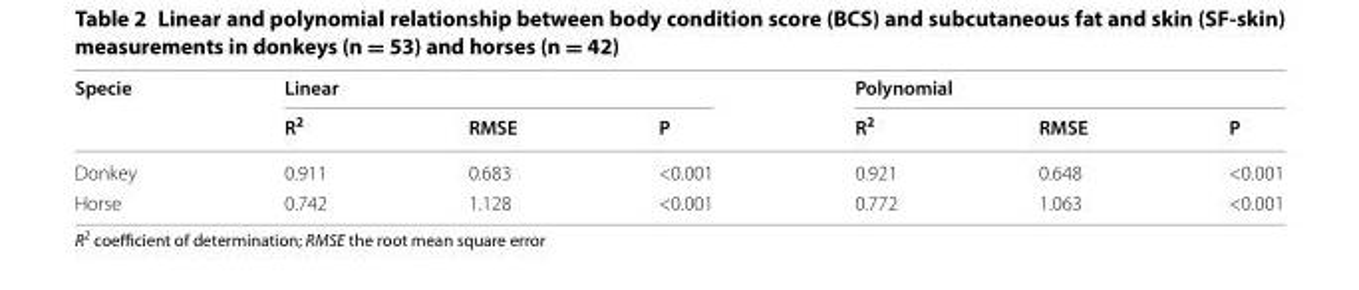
<table><thead><tr><td rowspan="2">Specie</td><td colspan="3">Linear</td><td colspan="3">Polynomial</td></tr><tr><td>R<sup>2</sup></td><td>RMSE</td><td>P</td><td>R<sup>2</sup></td><td>RMSE</td><td>P</td></tr></thead><tbody><tr><td>Donkey</td><td>0.911</td><td>0.683</td><td>&lt;0.001</td><td>0.921</td><td>0.648</td><td>&lt;0.001</td></tr><tr><td>Horse</td><td>0.742</td><td>1.128</td><td>&lt;0.001</td><td>0.772</td><td>1.063</td><td>&lt;0.001</td></tr></tbody></table>